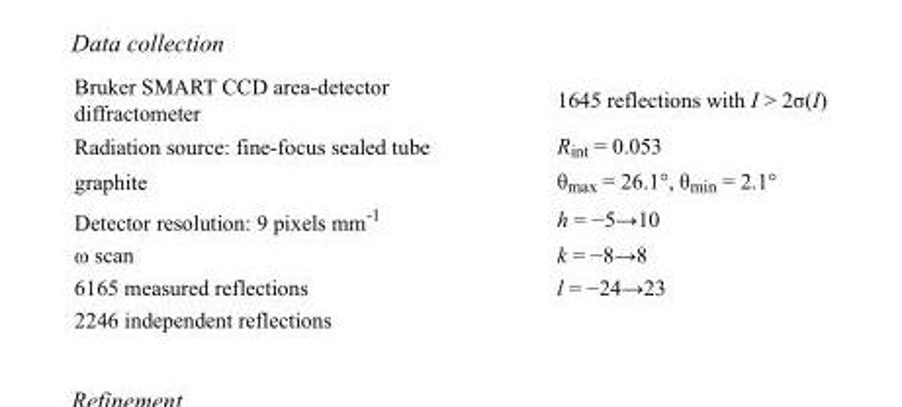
<table><tbody><tr><td>Bruker SMART CCD area-detector diffractometer</td><td>1645 reflections with I &gt; 2σ(I)</td></tr><tr><td>Radiation source: fine-focus sealed tube</td><td>R<sub>int</sub> = 0.053</td></tr><tr><td>graphite</td><td>θ<sub>max</sub> = 26.1°, θ<sub>min</sub> = 2.1°</td></tr><tr><td>Detector resolution: 9 pixels mm<sup>-1</sup></td><td>h = −5→10</td></tr><tr><td>ω scan</td><td>k = −8→8</td></tr><tr><td>6165 measured reflections</td><td>l = −24→23</td></tr><tr><td>2246 independent reflections</td><td></td></tr></tbody></table>